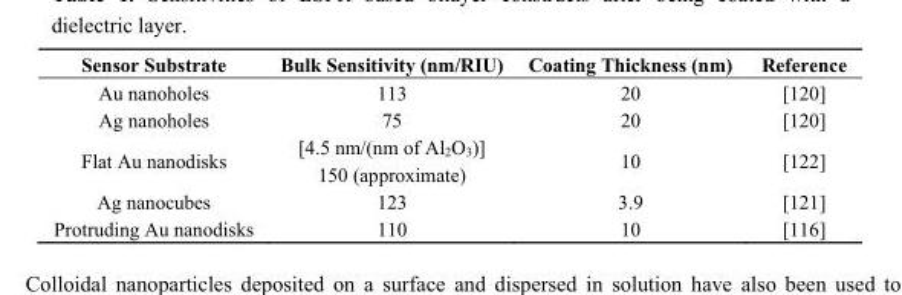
<table><thead><tr><td>Sensor Substrate</td><td>Bulk Sensitivity (nm/RIU)</td><td>Coating Thickness (nm)</td><td>Reference</td></tr></thead><tbody><tr><td>Au nanoholes</td><td>113</td><td>20</td><td>[120]</td></tr><tr><td>Ag nanoholes</td><td>75</td><td>20</td><td>[120]</td></tr><tr><td>Flat Au nanodisks</td><td>[4.5 nm/(nm of Al<sub>2</sub>O<sub>3</sub>)] 150 (approximate)</td><td>10</td><td>[122]</td></tr><tr><td>Ag nanocubes</td><td>123</td><td>3.9</td><td>[121]</td></tr><tr><td>Protruding Au nanodisks</td><td>110</td><td>10</td><td>[116]</td></tr></tbody></table>